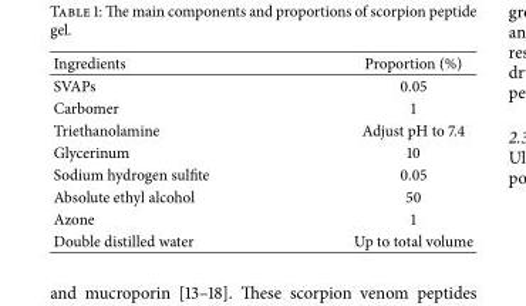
<table><thead><tr><td>Ingredients</td><td>Proportion (%)</td></tr></thead><tbody><tr><td>SVAPs</td><td>0.05</td></tr><tr><td>Carbomer</td><td>1</td></tr><tr><td>Triethanolamine</td><td>Adjust pH to 7.4</td></tr><tr><td>Glycerinum</td><td>10</td></tr><tr><td>Sodium hydrogen sulfite</td><td>0.05</td></tr><tr><td>Absolute ethyl alcohol</td><td>50</td></tr><tr><td>Azone</td><td>1</td></tr><tr><td>Double distilled water</td><td>Up to total volume</td></tr></tbody></table>